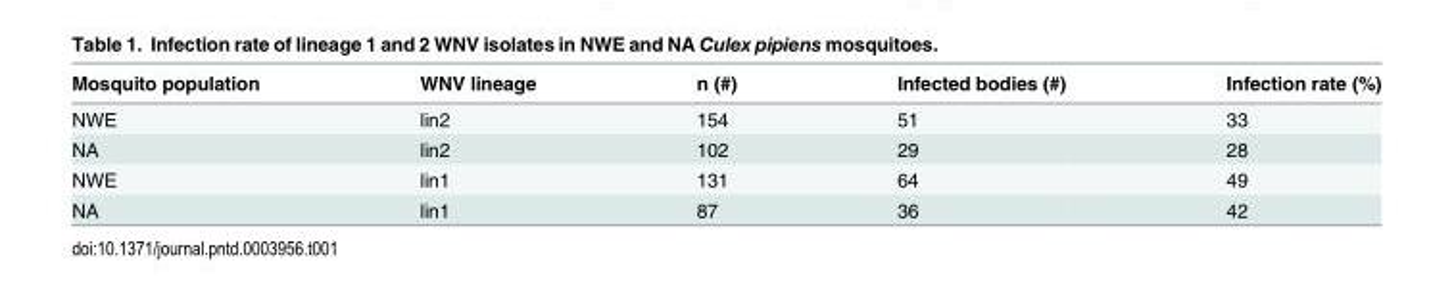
<table><thead><tr><td>Mosquito population</td><td>WNV lineage</td><td>n (#)</td><td>Infected bodies (#)</td><td>Infection rate (%)</td></tr></thead><tbody><tr><td>NWE</td><td>lin2</td><td>154</td><td>51</td><td>33</td></tr><tr><td>NA</td><td>lin2</td><td>102</td><td>29</td><td>28</td></tr><tr><td>NWE</td><td>lin1</td><td>131</td><td>64</td><td>49</td></tr><tr><td>NA</td><td>lin1</td><td>87</td><td>36</td><td>42</td></tr></tbody></table>